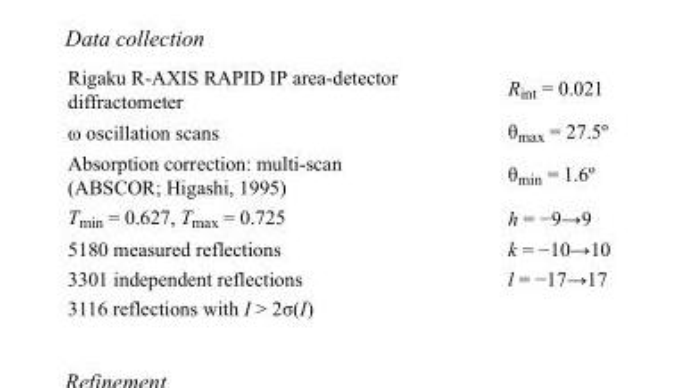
<table><tbody><tr><td>Rigaku R-AXIS RAPID IP area-detector diffractometer</td><td>R<sub>int</sub> = 0.021</td></tr><tr><td>ω oscillation scans</td><td>θ<sub>max</sub> = 27.5º</td></tr><tr><td>Absorption correction: multi-scan (ABSCOR; Higashi, 1995)</td><td>θ<sub>min</sub> = 1.6º</td></tr><tr><td>T<sub>min</sub> = 0.627, T<sub>max</sub> = 0.725</td><td>h = −9→9</td></tr><tr><td>5180 measured reflections</td><td>k = −10→10</td></tr><tr><td>3301 independent reflections</td><td>l = −17→17</td></tr><tr><td>3116 reflections with I &gt; 2σ(I)</td><td></td></tr></tbody></table>